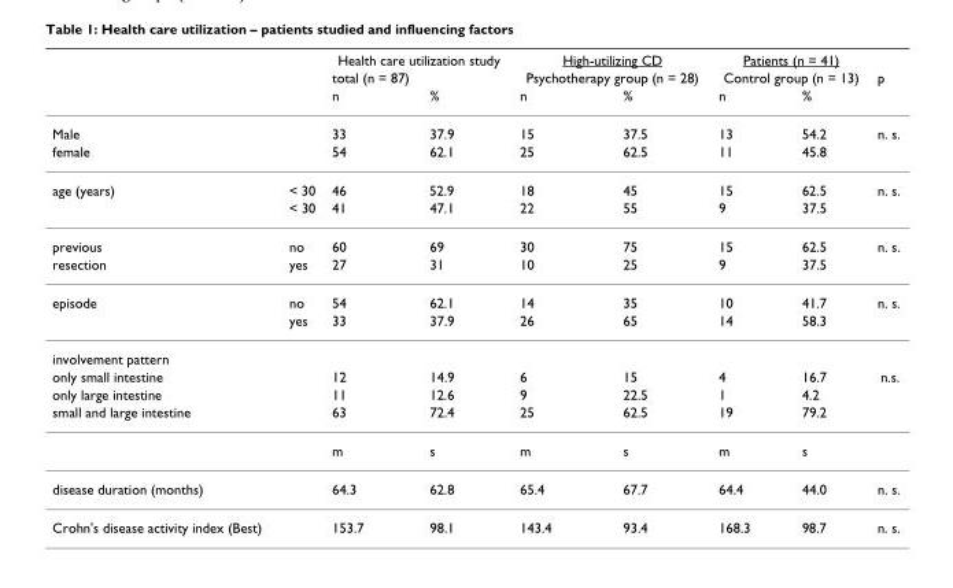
<table><thead><tr><td rowspan="3"></td><td rowspan="3"></td><td rowspan="2" colspan="2">Health care utilization study total (n = 87)</td><td rowspan="2" colspan="2">High-utilizing CD Psychotherapy group (n = 28)</td><td rowspan="2" colspan="2">Patients (n = 41) Control group (n = 13)</td><td rowspan="3">p</td></tr><tr></tr><tr><td>n</td><td>%</td><td>n</td><td>%</td><td>n</td><td>%</td></tr></thead><tbody><tr><td>Male</td><td></td><td>33</td><td>37.9</td><td>15</td><td>37.5</td><td>13</td><td>54.2</td><td>n. s.</td></tr><tr><td>female</td><td></td><td>54</td><td>62.1</td><td>25</td><td>62.5</td><td>11</td><td>45.8</td><td></td></tr><tr><td rowspan="2">age (years)</td><td>&lt; 30</td><td>46</td><td>52.9</td><td>18</td><td>45</td><td>15</td><td>62.5</td><td>n. s.</td></tr><tr><td>&lt; 30</td><td>41</td><td>47.1</td><td>22</td><td>55</td><td>9</td><td>37.5</td><td></td></tr><tr><td>previous</td><td>no</td><td>60</td><td>69</td><td>30</td><td>75</td><td>15</td><td>62.5</td><td>n. s.</td></tr><tr><td>resection</td><td>yes</td><td>27</td><td>31</td><td>10</td><td>25</td><td>9</td><td>37.5</td><td></td></tr><tr><td rowspan="2">episode</td><td>no</td><td>54</td><td>62.1</td><td>14</td><td>35</td><td>10</td><td>41.7</td><td>n. s.</td></tr><tr><td>yes</td><td>33</td><td>37.9</td><td>26</td><td>65</td><td>14</td><td>58.3</td><td></td></tr><tr><td colspan="9">involvement pattern</td></tr><tr><td>only small intestine</td><td></td><td>12</td><td>14.9</td><td>6</td><td>15</td><td>4</td><td>16.7</td><td>n.s.</td></tr><tr><td>only large intestine</td><td></td><td>11</td><td>12.6</td><td>9</td><td>22.5</td><td>1</td><td>4.2</td><td></td></tr><tr><td rowspan="2">small and large intestine</td><td></td><td>63</td><td>72.4</td><td>25</td><td>62.5</td><td>19</td><td>79.2</td><td></td></tr><tr><td></td><td>m</td><td>s</td><td>m</td><td>s</td><td>m</td><td>s</td><td></td></tr><tr><td>disease duration (months)</td><td></td><td>64.3</td><td>62.8</td><td>65.4</td><td>67.7</td><td>64.4</td><td>44.0</td><td>n. s.</td></tr><tr><td>Crohn&#x27;s disease activity index (Best)</td><td></td><td>153.7</td><td>98.1</td><td>143.4</td><td>93.4</td><td>168.3</td><td>98.7</td><td>n. s.</td></tr></tbody></table>